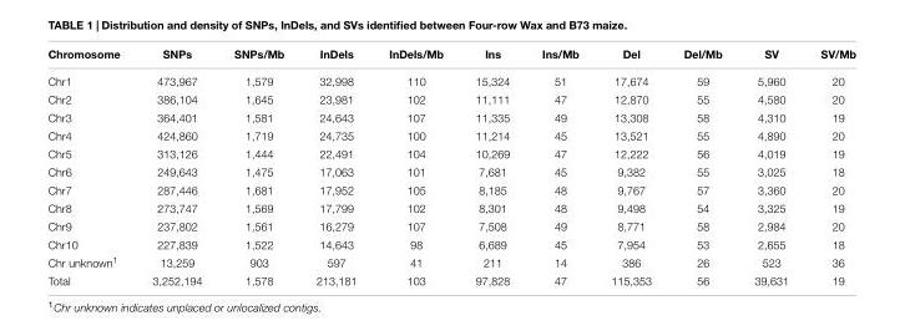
<table><thead><tr><td>Chromosome</td><td>SNPs</td><td>SNPs/Mb</td><td>InDels</td><td>InDels/Mb</td><td>Ins</td><td>Ins/Mb</td><td>Del</td><td>Del/Mb</td><td>SV</td><td>SV/Mb</td></tr></thead><tbody><tr><td>Chr1</td><td>473,967</td><td>1,579</td><td>32,998</td><td>110</td><td>15,324</td><td>51</td><td>17,674</td><td>59</td><td>5,960</td><td>20</td></tr><tr><td>Chr2</td><td>386,104</td><td>1,645</td><td>23,981</td><td>102</td><td>11,111</td><td>47</td><td>12,870</td><td>55</td><td>4,580</td><td>20</td></tr><tr><td>Chr3</td><td>364,401</td><td>1,581</td><td>24,643</td><td>107</td><td>11,335</td><td>49</td><td>13,308</td><td>58</td><td>4,310</td><td>19</td></tr><tr><td>Chr4</td><td>424,860</td><td>1,719</td><td>24,735</td><td>100</td><td>11,214</td><td>45</td><td>13,521</td><td>55</td><td>4,890</td><td>20</td></tr><tr><td>Chr5</td><td>313,126</td><td>1,444</td><td>22,491</td><td>104</td><td>10,269</td><td>47</td><td>12,222</td><td>56</td><td>4,019</td><td>19</td></tr><tr><td>Chr6</td><td>249,643</td><td>1,475</td><td>17,063</td><td>101</td><td>7,681</td><td>45</td><td>9,382</td><td>55</td><td>3,025</td><td>18</td></tr><tr><td>Chr7</td><td>287,446</td><td>1,681</td><td>17,952</td><td>105</td><td>8,185</td><td>48</td><td>9,767</td><td>57</td><td>3,360</td><td>20</td></tr><tr><td>Chr8</td><td>273,747</td><td>1,569</td><td>17,799</td><td>102</td><td>8,301</td><td>48</td><td>9,498</td><td>54</td><td>3,325</td><td>19</td></tr><tr><td>Chr9</td><td>237,802</td><td>1,561</td><td>16,279</td><td>107</td><td>7,508</td><td>49</td><td>8,771</td><td>58</td><td>2,984</td><td>20</td></tr><tr><td>Chr10</td><td>227,839</td><td>1,522</td><td>14,643</td><td>98</td><td>6,689</td><td>45</td><td>7,954</td><td>53</td><td>2,655</td><td>18</td></tr><tr><td>Chr unknown<sup>1</sup></td><td>13,259</td><td>903</td><td>597</td><td>41</td><td>211</td><td>14</td><td>386</td><td>26</td><td>523</td><td>36</td></tr><tr><td>Total</td><td>3,252,194</td><td>1,578</td><td>213,181</td><td>103</td><td>97,828</td><td>47</td><td>115,353</td><td>56</td><td>39,631</td><td>19</td></tr></tbody></table>